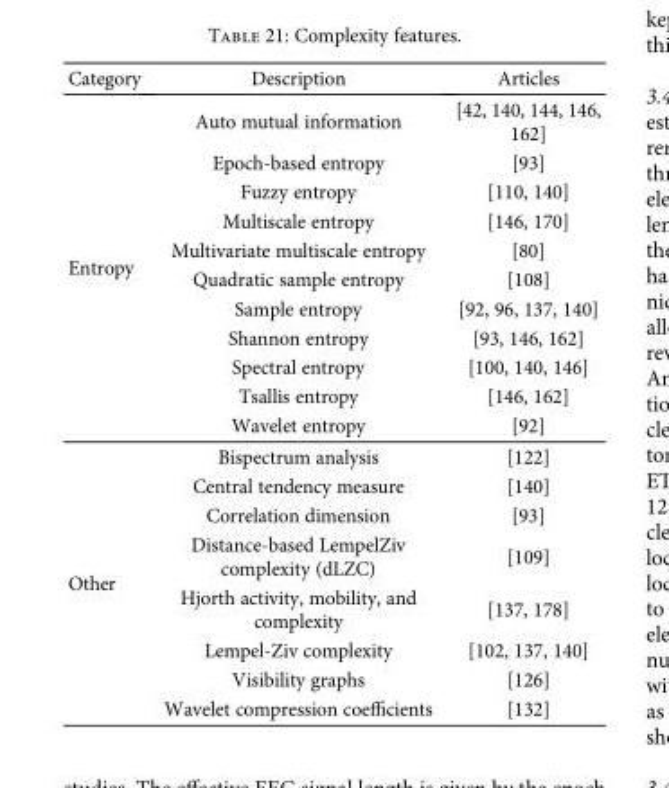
<table><thead><tr><td>Category</td><td>Description</td><td>Articles</td></tr></thead><tbody><tr><td rowspan="11">Entropy</td><td>Auto mutual information</td><td>[42, 140, 144, 146, 162]</td></tr><tr><td>Epoch-based entropy</td><td>[93]</td></tr><tr><td>Fuzzy entropy</td><td>[110, 140]</td></tr><tr><td>Multiscale entropy</td><td>[146, 170]</td></tr><tr><td>Multivariate multiscale entropy</td><td>[80]</td></tr><tr><td>Quadratic sample entropy</td><td>[108]</td></tr><tr><td>Sample entropy</td><td>[92, 96, 137, 140]</td></tr><tr><td>Shannon entropy</td><td>[93, 146, 162]</td></tr><tr><td>Spectral entropy</td><td>[100, 140, 146]</td></tr><tr><td>Tsallis entropy</td><td>[146, 162]</td></tr><tr><td>Wavelet entropy</td><td>[92]</td></tr><tr><td rowspan="8">Other</td><td>Bispectrum analysis</td><td>[122]</td></tr><tr><td>Central tendency measure</td><td>[140]</td></tr><tr><td>Correlation dimension</td><td>[93]</td></tr><tr><td>Distance-based LempelZiv complexity (dLZC)</td><td>[109]</td></tr><tr><td>Hjorth activity, mobility, and complexity</td><td>[137, 178]</td></tr><tr><td>Lempel-Ziv complexity</td><td>[102, 137, 140]</td></tr><tr><td>Visibility graphs</td><td>[126]</td></tr><tr><td>Wavelet compression coefficients</td><td>[132]</td></tr></tbody></table>